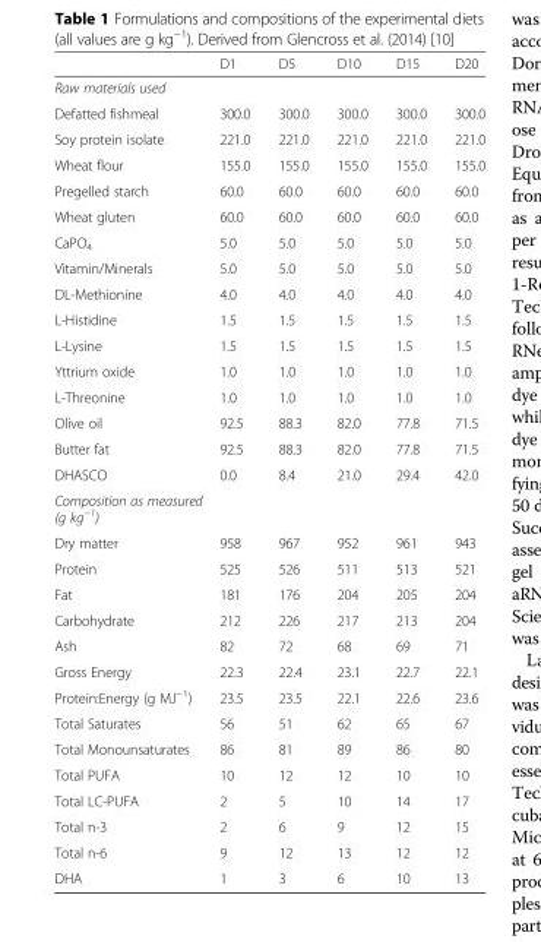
<table><thead><tr><td></td><td>D1</td><td>D5</td><td>D10</td><td>D15</td><td>D20</td></tr></thead><tbody><tr><td colspan="6">Raw materials used</td></tr><tr><td>Defatted fishmeal</td><td>300.0</td><td>300.0</td><td>300.0</td><td>300.0</td><td>300.0</td></tr><tr><td>Soy protein isolate</td><td>221.0</td><td>221.0</td><td>221.0</td><td>221.0</td><td>221.0</td></tr><tr><td>Wheat flour</td><td>155.0</td><td>155.0</td><td>155.0</td><td>155.0</td><td>155.0</td></tr><tr><td>Pregelled starch</td><td>60.0</td><td>60.0</td><td>60.0</td><td>60.0</td><td>60.0</td></tr><tr><td>Wheat gluten</td><td>60.0</td><td>60.0</td><td>60.0</td><td>60.0</td><td>60.0</td></tr><tr><td>CaPO<sub>4</sub></td><td>5.0</td><td>5.0</td><td>5.0</td><td>5.0</td><td>5.0</td></tr><tr><td>Vitamin/Minerals</td><td>5.0</td><td>5.0</td><td>5.0</td><td>5.0</td><td>5.0</td></tr><tr><td>DL-Methionine</td><td>4.0</td><td>4.0</td><td>4.0</td><td>4.0</td><td>4.0</td></tr><tr><td>L-Histidine</td><td>1.5</td><td>1.5</td><td>1.5</td><td>1.5</td><td>1.5</td></tr><tr><td>L-Lysine</td><td>1.5</td><td>1.5</td><td>1.5</td><td>1.5</td><td>1.5</td></tr><tr><td>Yttrium oxide</td><td>1.0</td><td>1.0</td><td>1.0</td><td>1.0</td><td>1.0</td></tr><tr><td>L-Threonine</td><td>1.0</td><td>1.0</td><td>1.0</td><td>1.0</td><td>1.0</td></tr><tr><td>Olive oil</td><td>92.5</td><td>88.3</td><td>82.0</td><td>77.8</td><td>71.5</td></tr><tr><td>Butter fat</td><td>92.5</td><td>88.3</td><td>82.0</td><td>77.8</td><td>71.5</td></tr><tr><td>DHASCO</td><td>0.0</td><td>8.4</td><td>21.0</td><td>29.4</td><td>42.0</td></tr><tr><td colspan="6">Composition as measured (g kg<sup>−1</sup>)</td></tr><tr><td>Dry matter</td><td>958</td><td>967</td><td>952</td><td>961</td><td>943</td></tr><tr><td>Protein</td><td>525</td><td>526</td><td>511</td><td>513</td><td>521</td></tr><tr><td>Fat</td><td>181</td><td>176</td><td>204</td><td>205</td><td>204</td></tr><tr><td>Carbohydrate</td><td>212</td><td>226</td><td>217</td><td>213</td><td>204</td></tr><tr><td>Ash</td><td>82</td><td>72</td><td>68</td><td>69</td><td>71</td></tr><tr><td>Gross Energy</td><td>22.3</td><td>22.4</td><td>23.1</td><td>22.7</td><td>22.1</td></tr><tr><td>Protein:Energy (g MJ<sup>−1</sup>)</td><td>23.5</td><td>23.5</td><td>22.1</td><td>22.6</td><td>23.6</td></tr><tr><td>Total Saturates</td><td>56</td><td>51</td><td>62</td><td>65</td><td>67</td></tr><tr><td>Total Monounsaturates</td><td>86</td><td>81</td><td>89</td><td>86</td><td>80</td></tr><tr><td>Total PUFA</td><td>10</td><td>12</td><td>12</td><td>10</td><td>10</td></tr><tr><td>Total LC-PUFA</td><td>2</td><td>5</td><td>10</td><td>14</td><td>17</td></tr><tr><td>Total n-3</td><td>2</td><td>6</td><td>9</td><td>12</td><td>15</td></tr><tr><td>Total n-6</td><td>9</td><td>12</td><td>13</td><td>12</td><td>12</td></tr><tr><td>DHA</td><td>1</td><td>3</td><td>6</td><td>10</td><td>13</td></tr></tbody></table>